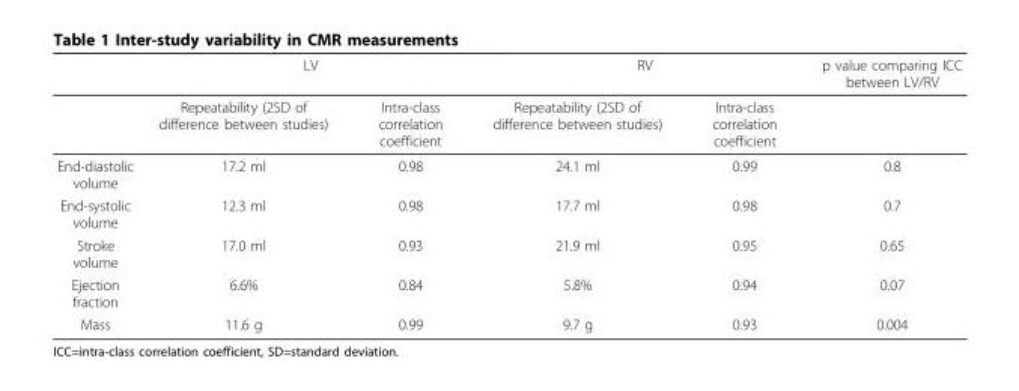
<table><thead><tr><td rowspan="2"></td><td colspan="2">LV</td><td colspan="2">RV</td><td rowspan="2">p value comparing ICC between LV/RV</td></tr><tr><td>Repeatability (2SD of difference between studies)</td><td>Intra-class correlation coefficient</td><td>Repeatability (2SD of difference between studies)</td><td>Intra-class correlation coefficient</td></tr></thead><tbody><tr><td>End-diastolic volume</td><td>17.2 ml</td><td>0.98</td><td>24.1 ml</td><td>0.99</td><td>0.8</td></tr><tr><td>End-systolic volume</td><td>12.3 ml</td><td>0.98</td><td>17.7 ml</td><td>0.98</td><td>0.7</td></tr><tr><td>Stroke volume</td><td>17.0 ml</td><td>0.93</td><td>21.9 ml</td><td>0.95</td><td>0.65</td></tr><tr><td>Ejection fraction</td><td>6.6%</td><td>0.84</td><td>5.8%</td><td>0.94</td><td>0.07</td></tr><tr><td>Mass</td><td>11.6 g</td><td>0.99</td><td>9.7 g</td><td>0.93</td><td>0.004</td></tr></tbody></table>